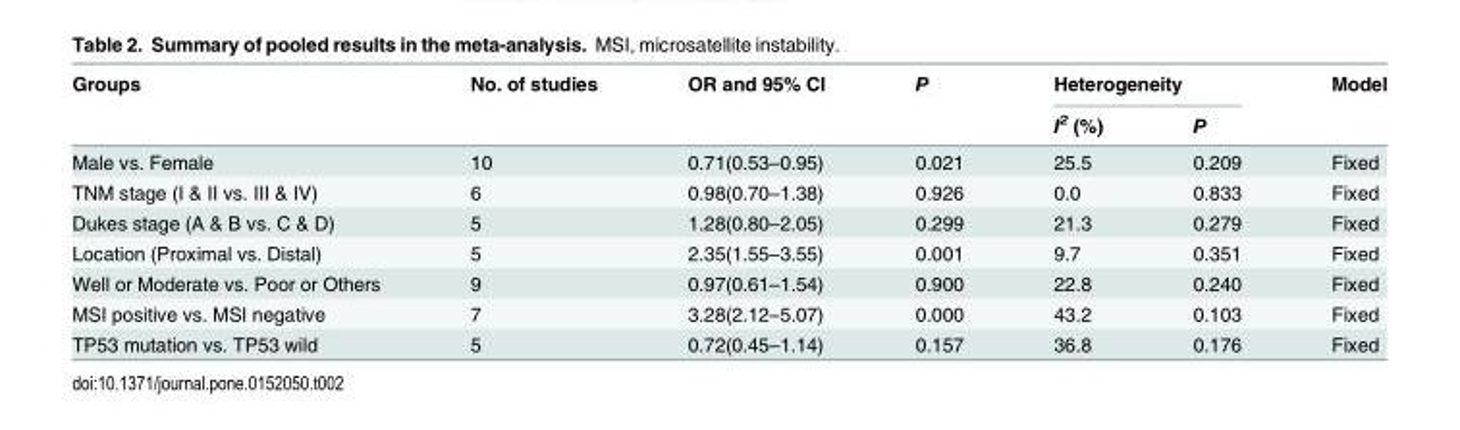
<table><thead><tr><td rowspan="2">Groups</td><td rowspan="2">No. of studies</td><td rowspan="2">OR and 95% CI</td><td rowspan="2">P</td><td colspan="2">Heterogeneity</td><td rowspan="2">Model</td></tr><tr><td>I<sup>2</sup> (%)</td><td>P</td></tr></thead><tbody><tr><td>Male vs. Female</td><td>10</td><td>0.71(0.53–0.95)</td><td>0.021</td><td>25.5</td><td>0.209</td><td>Fixed</td></tr><tr><td>TNM stage (I &amp; II vs. III &amp; IV)</td><td>6</td><td>0.98(0.70–1.38)</td><td>0.926</td><td>0.0</td><td>0.833</td><td>Fixed</td></tr><tr><td>Dukes stage (A &amp; B vs. C &amp; D)</td><td>5</td><td>1.28(0.80–2.05)</td><td>0.299</td><td>21.3</td><td>0.279</td><td>Fixed</td></tr><tr><td>Location (Proximal vs. Distal)</td><td>5</td><td>2.35(1.55–3.55)</td><td>0.001</td><td>9.7</td><td>0.351</td><td>Fixed</td></tr><tr><td>Well or Moderate vs. Poor or Others</td><td>9</td><td>0.97(0.61–1.54)</td><td>0.900</td><td>22.8</td><td>0.240</td><td>Fixed</td></tr><tr><td>MSI positive vs. MSI negative</td><td>7</td><td>3.28(2.12–5.07)</td><td>0.000</td><td>43.2</td><td>0.103</td><td>Fixed</td></tr><tr><td>TP53 mutation vs. TP53 wild</td><td>5</td><td>0.72(0.45–1.14)</td><td>0.157</td><td>36.8</td><td>0.176</td><td>Fixed</td></tr></tbody></table>